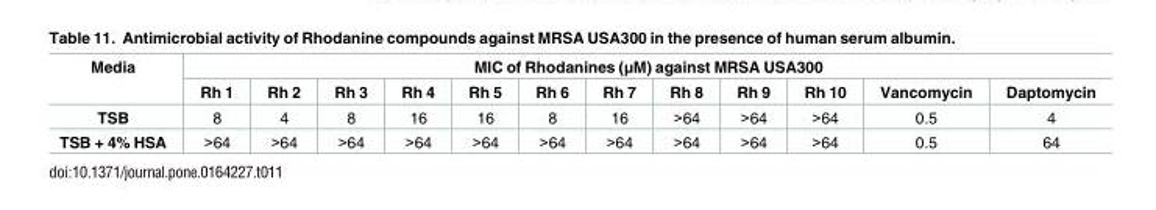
<table><thead><tr><td rowspan="2">Media</td><td colspan="12">MIC of Rhodanines (μM) against MRSA USA300</td></tr><tr><td>Rh 1</td><td>Rh 2</td><td>Rh 3</td><td>Rh 4</td><td>Rh 5</td><td>Rh 6</td><td>Rh 7</td><td>Rh 8</td><td>Rh 9</td><td>Rh 10</td><td>Vancomycin</td><td>Daptomycin</td></tr></thead><tbody><tr><td>TSB</td><td>8</td><td>4</td><td>8</td><td>16</td><td>16</td><td>8</td><td>16</td><td>&gt;64</td><td>&gt;64</td><td>&gt;64</td><td>0.5</td><td>4</td></tr><tr><td>TSB + 4% HSA</td><td>&gt;64</td><td>&gt;64</td><td>&gt;64</td><td>&gt;64</td><td>&gt;64</td><td>&gt;64</td><td>&gt;64</td><td>&gt;64</td><td>&gt;64</td><td>&gt;64</td><td>0.5</td><td>64</td></tr></tbody></table>